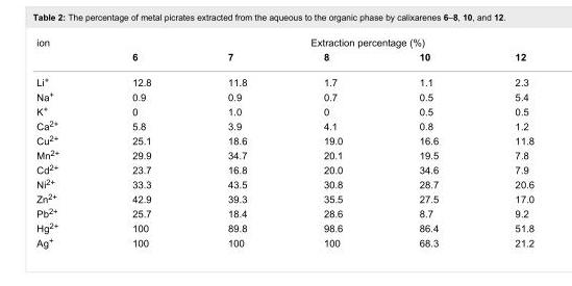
<table><tbody><tr><td rowspan="2">ion</td><td colspan="5">Extraction percentage (%)</td></tr><tr><td>6</td><td>7</td><td>8</td><td>10</td><td>12</td></tr><tr><td>Li<sup>+</sup></td><td>12.8</td><td>11.8</td><td>1.7</td><td>1.1</td><td>2.3</td></tr><tr><td>Na<sup>+</sup></td><td>0.9</td><td>0.9</td><td>0.7</td><td>0.5</td><td>5.4</td></tr><tr><td>K<sup>+</sup></td><td>0</td><td>1.0</td><td>0</td><td>0.5</td><td>0.5</td></tr><tr><td>Ca<sup>2+</sup></td><td>5.8</td><td>3.9</td><td>4.1</td><td>0.8</td><td>1.2</td></tr><tr><td>Cu<sup>2+</sup></td><td>25.1</td><td>18.6</td><td>19.0</td><td>16.6</td><td>11.8</td></tr><tr><td>Mn<sup>2+</sup></td><td>29.9</td><td>34.7</td><td>20.1</td><td>19.5</td><td>7.8</td></tr><tr><td>Cd<sup>2+</sup></td><td>23.7</td><td>16.8</td><td>20.0</td><td>34.6</td><td>7.9</td></tr><tr><td>Ni<sup>2+</sup></td><td>33.3</td><td>43.5</td><td>30.8</td><td>28.7</td><td>20.6</td></tr><tr><td>Zn<sup>2+</sup></td><td>42.9</td><td>39.3</td><td>35.5</td><td>27.5</td><td>17.0</td></tr><tr><td>Pb<sup>2+</sup></td><td>25.7</td><td>18.4</td><td>28.6</td><td>8.7</td><td>9.2</td></tr><tr><td>Hg<sup>2+</sup></td><td>100</td><td>89.8</td><td>98.6</td><td>86.4</td><td>51.8</td></tr><tr><td>Ag<sup>+</sup></td><td>100</td><td>100</td><td>100</td><td>68.3</td><td>21.2</td></tr></tbody></table>